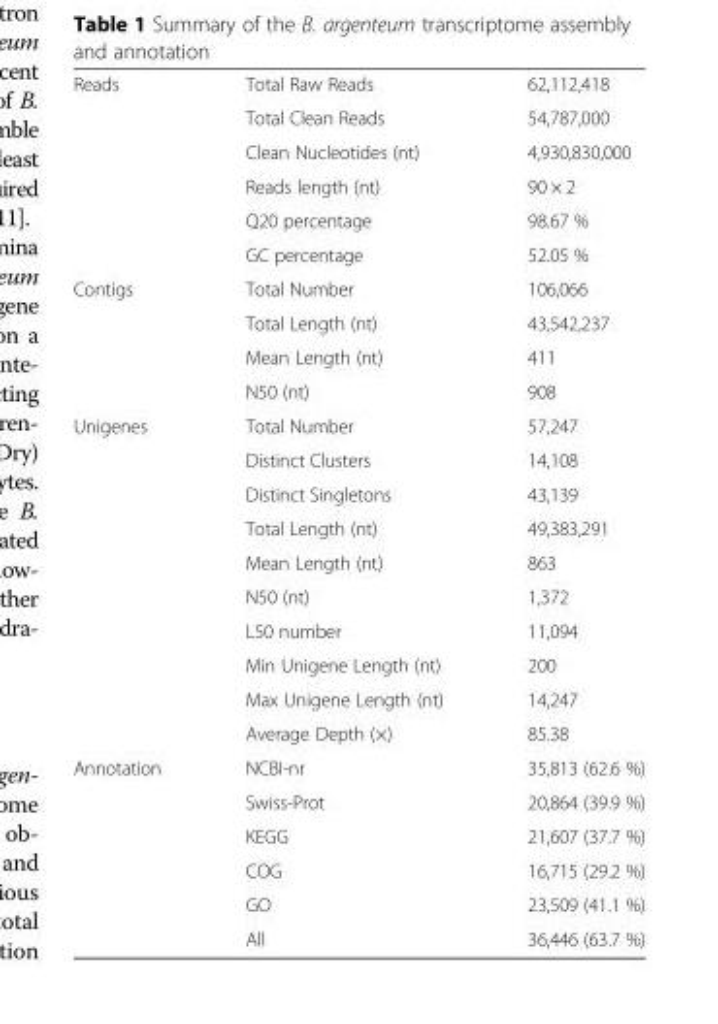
<table><tbody><tr><td rowspan="6">Reads</td><td>Total Raw Reads</td><td>62,112,418</td></tr><tr><td>Total Clean Reads</td><td>54,787,000</td></tr><tr><td>Clean Nucleotides (nt)</td><td>4,930,830,000</td></tr><tr><td>Reads length (nt)</td><td>90 × 2</td></tr><tr><td>Q20 percentage</td><td>98.67 %</td></tr><tr><td>GC percentage</td><td>52.05 %</td></tr><tr><td rowspan="4">Contigs</td><td>Total Number</td><td>106,066</td></tr><tr><td>Total Length (nt)</td><td>43,542,237</td></tr><tr><td>Mean Length (nt)</td><td>411</td></tr><tr><td>N50 (nt)</td><td>908</td></tr><tr><td rowspan="10">Unigenes</td><td>Total Number</td><td>57,247</td></tr><tr><td>Distinct Clusters</td><td>14,108</td></tr><tr><td>Distinct Singletons</td><td>43,139</td></tr><tr><td>Total Length (nt)</td><td>49,383,291</td></tr><tr><td>Mean Length (nt)</td><td>863</td></tr><tr><td>N50 (nt)</td><td>1,372</td></tr><tr><td>L50 number</td><td>11,094</td></tr><tr><td>Min Unigene Length (nt)</td><td>200</td></tr><tr><td>Max Unigene Length (nt)</td><td>14,247</td></tr><tr><td>Average Depth (×)</td><td>85.38</td></tr><tr><td rowspan="6">Annotation</td><td>NCBI-nr</td><td>35,813 (62.6 %)</td></tr><tr><td>Swiss-Prot</td><td>20,864 (39.9 %)</td></tr><tr><td>KEGG</td><td>21,607 (37.7 %)</td></tr><tr><td>COG</td><td>16,715 (29.2 %)</td></tr><tr><td>GO</td><td>23,509 (41.1 %)</td></tr><tr><td>All</td><td>36,446 (63.7 %)</td></tr></tbody></table>